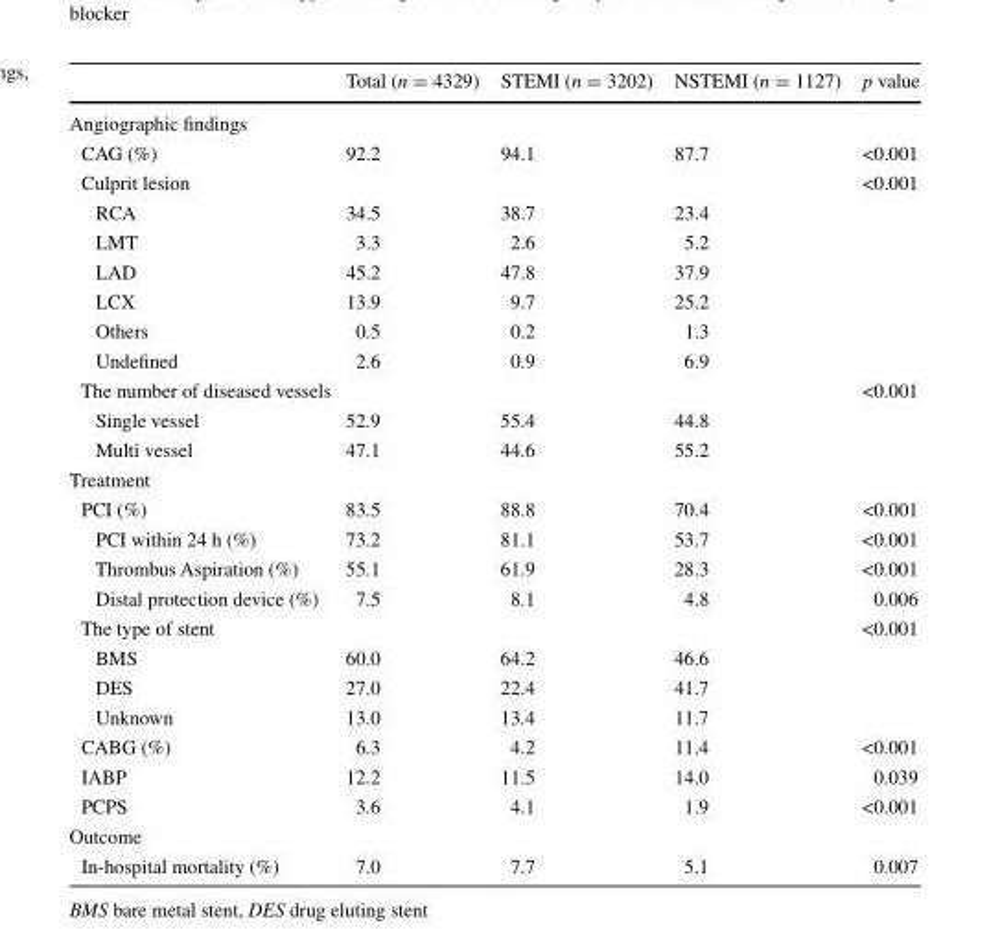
<table><thead><tr><td></td><td>Total (n = 4329)</td><td>STEMI (n = 3202)</td><td>NSTEMI (n = 1127)</td><td>p value</td></tr></thead><tbody><tr><td colspan="5">Angiographic findings</td></tr><tr><td>CAG (%)</td><td>92.2</td><td>94.1</td><td>87.7</td><td>&lt;0.001</td></tr><tr><td>Culprit lesion</td><td></td><td></td><td></td><td>&lt;0.001</td></tr><tr><td>RCA</td><td>34.5</td><td>38.7</td><td>23.4</td><td></td></tr><tr><td>LMT</td><td>3.3</td><td>2.6</td><td>5.2</td><td></td></tr><tr><td>LAD</td><td>45.2</td><td>47.8</td><td>37.9</td><td></td></tr><tr><td>LCX</td><td>13.9</td><td>9.7</td><td>25.2</td><td></td></tr><tr><td>Others</td><td>0.5</td><td>0.2</td><td>1.3</td><td></td></tr><tr><td>Undefined</td><td>2.6</td><td>0.9</td><td>6.9</td><td></td></tr><tr><td>The number of diseased vessels</td><td></td><td></td><td></td><td>&lt;0.001</td></tr><tr><td>Single vessel</td><td>52.9</td><td>55.4</td><td>44.8</td><td></td></tr><tr><td>Multi vessel</td><td>47.1</td><td>44.6</td><td>55.2</td><td></td></tr><tr><td colspan="5">Treatment</td></tr><tr><td>PCI (%)</td><td>83.5</td><td>88.8</td><td>70.4</td><td>&lt;0.001</td></tr><tr><td>PCI within 24 h (%)</td><td>73.2</td><td>81.1</td><td>53.7</td><td>&lt;0.001</td></tr><tr><td>Thrombus Aspiration (%)</td><td>55.1</td><td>61.9</td><td>28.3</td><td>&lt;0.001</td></tr><tr><td>Distal protection device (%)</td><td>7.5</td><td>8.1</td><td>4.8</td><td>0.006</td></tr><tr><td>The type of stent</td><td></td><td></td><td></td><td>&lt;0.001</td></tr><tr><td>BMS</td><td>60.0</td><td>64.2</td><td>46.6</td><td></td></tr><tr><td>DES</td><td>27.0</td><td>22.4</td><td>41.7</td><td></td></tr><tr><td>Unknown</td><td>13.0</td><td>13.4</td><td>11.7</td><td></td></tr><tr><td>CABG (%)</td><td>6.3</td><td>4.2</td><td>11.4</td><td>&lt;0.001</td></tr><tr><td>IABP</td><td>12.2</td><td>11.5</td><td>14.0</td><td>0.039</td></tr><tr><td>PCPS</td><td>3.6</td><td>4.1</td><td>1.9</td><td>&lt;0.001</td></tr><tr><td colspan="5">Outcome</td></tr><tr><td>In-hospital mortality (%)</td><td>7.0</td><td>7.7</td><td>5.1</td><td>0.007</td></tr></tbody></table>